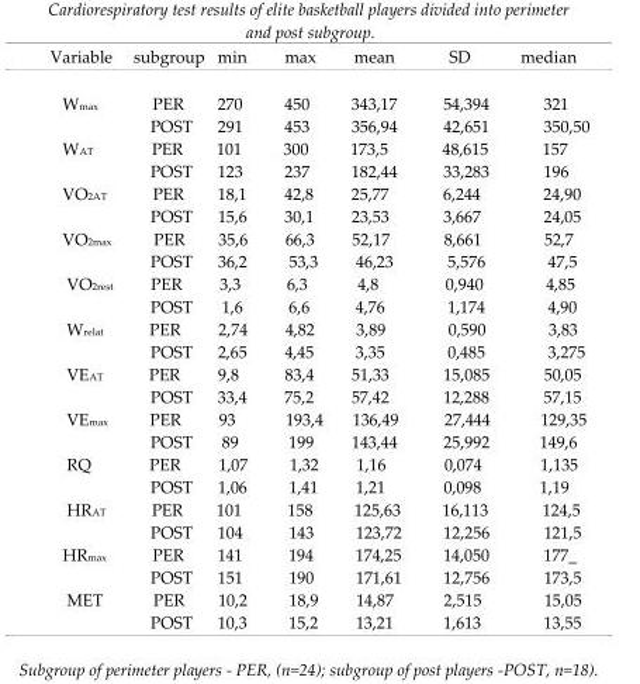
<table><thead><tr><td>Variable</td><td>subgroup</td><td>min</td><td>max</td><td>mean</td><td>SD</td><td>median</td></tr></thead><tbody><tr><td rowspan="2">W<sub>max</sub></td><td>PER</td><td>270</td><td>450</td><td>343,17</td><td>54,394</td><td>321</td></tr><tr><td>POST</td><td>291</td><td>453</td><td>356,94</td><td>42,651</td><td>350,50</td></tr><tr><td rowspan="2">W<sub>AT</sub></td><td>PER</td><td>101</td><td>300</td><td>173,5</td><td>48,615</td><td>157</td></tr><tr><td>POST</td><td>123</td><td>237</td><td>182,44</td><td>33,283</td><td>196</td></tr><tr><td rowspan="2">VO<sub>2AT</sub></td><td>PER</td><td>18,1</td><td>42,8</td><td>25,77</td><td>6,244</td><td>24,90</td></tr><tr><td>POST</td><td>15,6</td><td>30,1</td><td>23,53</td><td>3,667</td><td>24,05</td></tr><tr><td rowspan="2">VO<sub>2max</sub></td><td>PER</td><td>35,6</td><td>66,3</td><td>52,17</td><td>8,661</td><td>52,7</td></tr><tr><td>POST</td><td>36,2</td><td>53,3</td><td>46,23</td><td>5,576</td><td>47,5</td></tr><tr><td rowspan="2">VO<sub>2rest</sub></td><td>PER</td><td>3,3</td><td>6,3</td><td>4,8</td><td>0,940</td><td>4,85</td></tr><tr><td>POST</td><td>1,6</td><td>6,6</td><td>4,76</td><td>1,174</td><td>4,90</td></tr><tr><td rowspan="2">W<sub>relat</sub></td><td>PER</td><td>2,74</td><td>4,82</td><td>3,89</td><td>0,590</td><td>3,83</td></tr><tr><td>POST</td><td>2,65</td><td>4,45</td><td>3,35</td><td>0,485</td><td>3,275</td></tr><tr><td rowspan="2">VE<sub>AT</sub></td><td>PER</td><td>9,8</td><td>83,4</td><td>51,33</td><td>15,085</td><td>50,05</td></tr><tr><td>POST</td><td>33,4</td><td>75,2</td><td>57,42</td><td>12,288</td><td>57,15</td></tr><tr><td rowspan="2">VE<sub>max</sub></td><td>PER</td><td>93</td><td>193,4</td><td>136,49</td><td>27,444</td><td>129,35</td></tr><tr><td>POST</td><td>89</td><td>199</td><td>143,44</td><td>25,992</td><td>149,6</td></tr><tr><td rowspan="2">RQ</td><td>PER</td><td>1,07</td><td>1,32</td><td>1,16</td><td>0,074</td><td>1,135</td></tr><tr><td>POST</td><td>1,06</td><td>1,41</td><td>1,21</td><td>0,098</td><td>1,19</td></tr><tr><td rowspan="2">HR<sub>AT</sub></td><td>PER</td><td>101</td><td>158</td><td>125,63</td><td>16,113</td><td>124,5</td></tr><tr><td>POST</td><td>104</td><td>143</td><td>123,72</td><td>12,256</td><td>121,5</td></tr><tr><td rowspan="2">HR<sub>max</sub></td><td>PER</td><td>141</td><td>194</td><td>174,25</td><td>14,050</td><td>177_</td></tr><tr><td>POST</td><td>151</td><td>190</td><td>171,61</td><td>12,756</td><td>173,5</td></tr><tr><td rowspan="2">MET</td><td>PER</td><td>10,2</td><td>18,9</td><td>14,87</td><td>2,515</td><td>15,05</td></tr><tr><td>POST</td><td>10,3</td><td>15,2</td><td>13,21</td><td>1,613</td><td>13,55</td></tr></tbody></table>